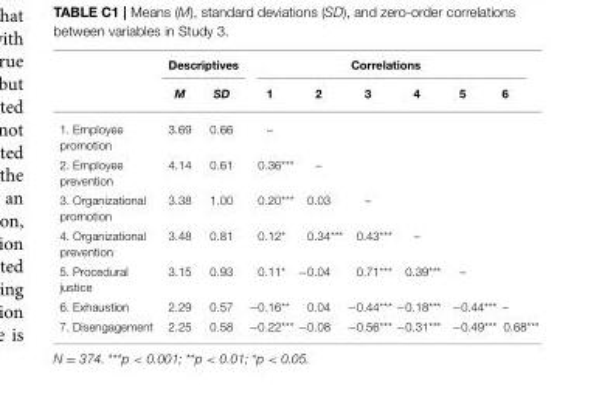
<table><thead><tr><td rowspan="2"></td><td colspan="2">Descriptives</td><td colspan="6">Correlations</td></tr><tr><td>M</td><td>SD</td><td>1</td><td>2</td><td>3</td><td>4</td><td>5</td><td>6</td></tr></thead><tbody><tr><td>1. Employee promotion</td><td>3.69</td><td>0.66</td><td>–</td><td></td><td></td><td></td><td></td><td></td></tr><tr><td>2. Employee prevention</td><td>4.14</td><td>0.61</td><td>0.36***</td><td>–</td><td></td><td></td><td></td><td></td></tr><tr><td>3. Organizational promotion</td><td>3.38</td><td>1.00</td><td>0.20***</td><td>0.03</td><td>–</td><td></td><td></td><td></td></tr><tr><td>4. Organizational prevention</td><td>3.48</td><td>0.81</td><td>0.12*</td><td>0.34***</td><td>0.43***</td><td>–</td><td></td><td></td></tr><tr><td>5. Procedural justice</td><td>3.15</td><td>0.93</td><td>0.11*</td><td>−0.04</td><td>0.71***</td><td>0.39***</td><td>–</td><td></td></tr><tr><td>6. Exhaustion</td><td>2.29</td><td>0.57</td><td>−0.16**</td><td>0.04</td><td>−0.44***</td><td>−0.18***</td><td>−0.44***</td><td>–</td></tr><tr><td>7. Disengagement</td><td>2.25</td><td>0.58</td><td>−0.22***</td><td>−0.08</td><td>−0.56***</td><td>−0.31***</td><td>−0.49***</td><td>0.68***</td></tr></tbody></table>